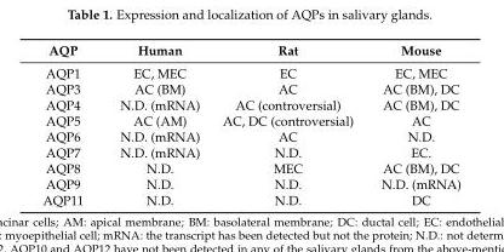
<table><thead><tr><td>AQP</td><td>Human</td><td>Rat</td><td>Mouse</td></tr></thead><tbody><tr><td>AQP1</td><td>EC, MEC</td><td>EC</td><td>EC, MEC</td></tr><tr><td>AQP3</td><td>AC (BM)</td><td>AC</td><td>AC (BM), DC</td></tr><tr><td>AQP4</td><td>N.D. (mRNA)</td><td>AC (controversial)</td><td>AC (BM), DC</td></tr><tr><td>AQP5</td><td>AC (AM)</td><td>AC, DC (controversial)</td><td>AC</td></tr><tr><td>AQP6</td><td>N.D. (mRNA)</td><td>AC</td><td>N.D.</td></tr><tr><td>AQP7</td><td>N.D. (mRNA)</td><td>N.D.</td><td>EC.</td></tr><tr><td>AQP8</td><td>N.D.</td><td>MEC</td><td>AC (BM), DC</td></tr><tr><td>AQP9</td><td>N.D.</td><td>N.D.</td><td>N.D. (mRNA)</td></tr><tr><td>AQP11</td><td>N.D.</td><td>N.D.</td><td>DC</td></tr></tbody></table>